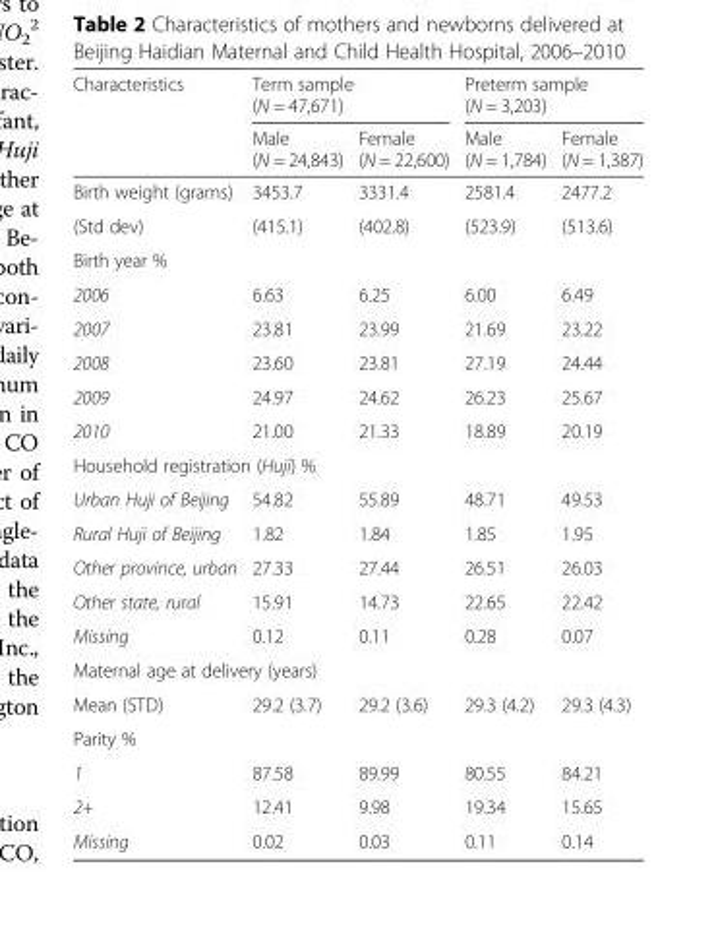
<table><thead><tr><td rowspan="2">Characteristics</td><td colspan="2">Term sample (N = 47,671)</td><td colspan="2">Preterm sample (N = 3,203)</td></tr><tr><td>Male (N = 24,843)</td><td>Female (N = 22,600)</td><td>Male (N = 1,784)</td><td>Female (N = 1,387)</td></tr></thead><tbody><tr><td>Birth weight (grams)</td><td>3453.7</td><td>3331.4</td><td>2581.4</td><td>2477.2</td></tr><tr><td>(Std dev)</td><td>(415.1)</td><td>(402.8)</td><td>(523.9)</td><td>(513.6)</td></tr><tr><td colspan="5">Birth year %</td></tr><tr><td>2006</td><td>6.63</td><td>6.25</td><td>6.00</td><td>6.49</td></tr><tr><td>2007</td><td>23.81</td><td>23.99</td><td>21.69</td><td>23.22</td></tr><tr><td>2008</td><td>23.60</td><td>23.81</td><td>27.19</td><td>24.44</td></tr><tr><td>2009</td><td>24.97</td><td>24.62</td><td>26.23</td><td>25.67</td></tr><tr><td>2010</td><td>21.00</td><td>21.33</td><td>18.89</td><td>20.19</td></tr><tr><td colspan="5">Household registration (Huji) %</td></tr><tr><td>Urban Huji of Beijing</td><td>54.82</td><td>55.89</td><td>48.71</td><td>49.53</td></tr><tr><td>Rural Huji of Beijing</td><td>1.82</td><td>1.84</td><td>1.85</td><td>1.95</td></tr><tr><td>Other province, urban</td><td>27.33</td><td>27.44</td><td>26.51</td><td>26.03</td></tr><tr><td>Other state, rural</td><td>15.91</td><td>14.73</td><td>22.65</td><td>22.42</td></tr><tr><td>Missing</td><td>0.12</td><td>0.11</td><td>0.28</td><td>0.07</td></tr><tr><td colspan="5">Maternal age at delivery (years)</td></tr><tr><td>Mean (STD)</td><td>29.2 (3.7)</td><td>29.2 (3.6)</td><td>29.3 (4.2)</td><td>29.3 (4.3)</td></tr><tr><td colspan="5">Parity %</td></tr><tr><td>1</td><td>87.58</td><td>89.99</td><td>80.55</td><td>84.21</td></tr><tr><td>2+</td><td>12.41</td><td>9.98</td><td>19.34</td><td>15.65</td></tr><tr><td>Missing</td><td>0.02</td><td>0.03</td><td>0.11</td><td>0.14</td></tr></tbody></table>